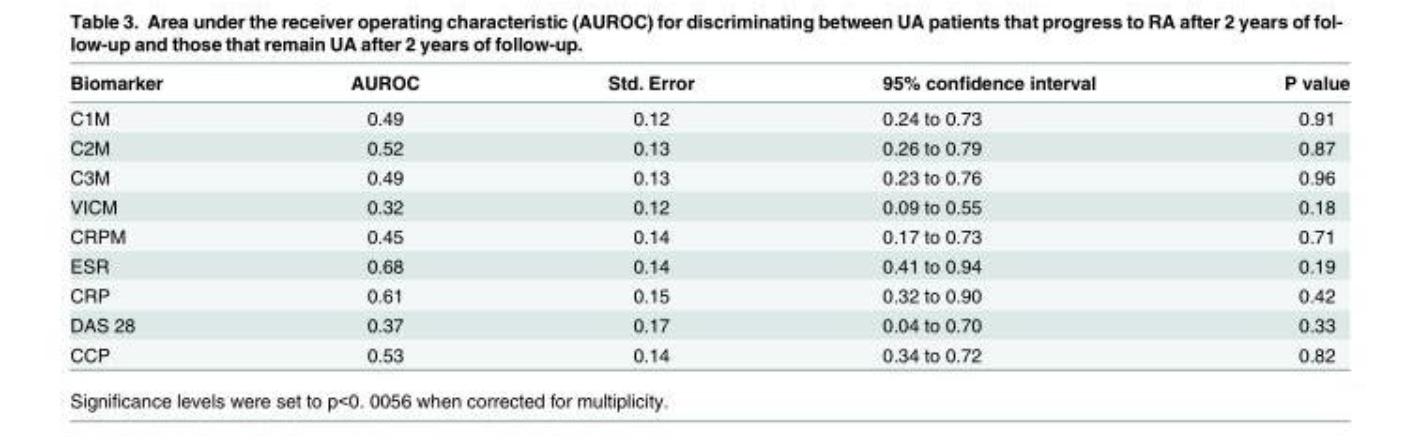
<table><thead><tr><td>Biomarker</td><td>AUROC</td><td>Std. Error</td><td>95% confidence interval</td><td>P value</td></tr></thead><tbody><tr><td>C1M</td><td>0.49</td><td>0.12</td><td>0.24 to 0.73</td><td>0.91</td></tr><tr><td>C2M</td><td>0.52</td><td>0.13</td><td>0.26 to 0.79</td><td>0.87</td></tr><tr><td>C3M</td><td>0.49</td><td>0.13</td><td>0.23 to 0.76</td><td>0.96</td></tr><tr><td>VICM</td><td>0.32</td><td>0.12</td><td>0.09 to 0.55</td><td>0.18</td></tr><tr><td>CRPM</td><td>0.45</td><td>0.14</td><td>0.17 to 0.73</td><td>0.71</td></tr><tr><td>ESR</td><td>0.68</td><td>0.14</td><td>0.41 to 0.94</td><td>0.19</td></tr><tr><td>CRP</td><td>0.61</td><td>0.15</td><td>0.32 to 0.90</td><td>0.42</td></tr><tr><td>DAS 28</td><td>0.37</td><td>0.17</td><td>0.04 to 0.70</td><td>0.33</td></tr><tr><td>CCP</td><td>0.53</td><td>0.14</td><td>0.34 to 0.72</td><td>0.82</td></tr></tbody></table>